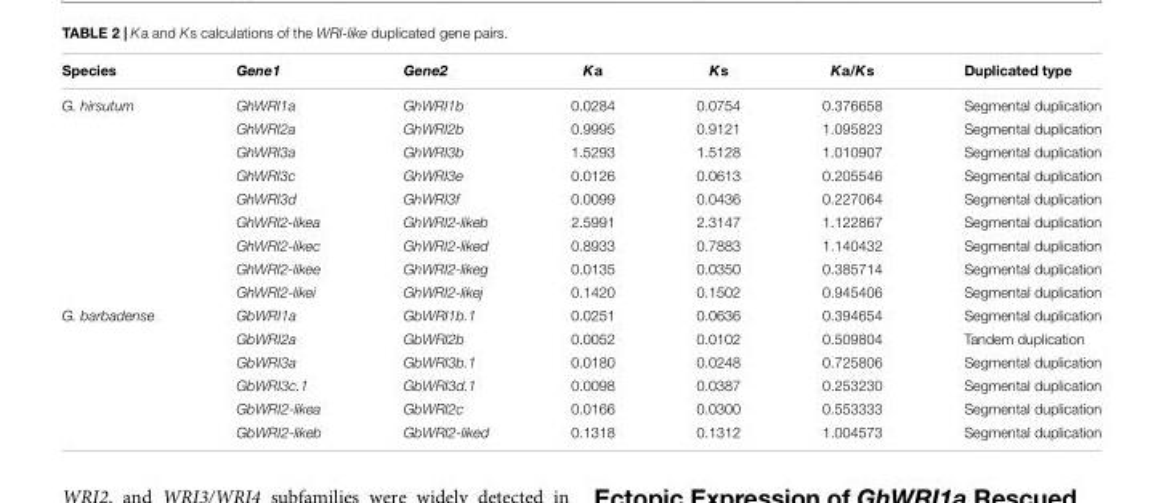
<table><thead><tr><td>Species</td><td>Gene1</td><td>Gene2</td><td>Ka</td><td>Ks</td><td>Ka/Ks</td><td>Duplicated type</td></tr></thead><tbody><tr><td rowspan="9">G. hirsutum</td><td>GhWRI1a</td><td>GhWRI1b</td><td>0.0284</td><td>0.0754</td><td>0.376658</td><td>Segmental duplication</td></tr><tr><td>GhWRI2a</td><td>GhWRI2b</td><td>0.9995</td><td>0.9121</td><td>1.095823</td><td>Segmental duplication</td></tr><tr><td>GhWRI3a</td><td>GhWRI3b</td><td>1.5293</td><td>1.5128</td><td>1.010907</td><td>Segmental duplication</td></tr><tr><td>GhWRI3c</td><td>GhWRI3e</td><td>0.0126</td><td>0.0613</td><td>0.205546</td><td>Segmental duplication</td></tr><tr><td>GhWRI3d</td><td>GhWRI3f</td><td>0.0099</td><td>0.0436</td><td>0.227064</td><td>Segmental duplication</td></tr><tr><td>GhWRI2-likea</td><td>GhWRI2-likeb</td><td>2.5991</td><td>2.3147</td><td>1.122867</td><td>Segmental duplication</td></tr><tr><td>GhWRI2-likec</td><td>GhWRI2-liked</td><td>0.8933</td><td>0.7883</td><td>1.140432</td><td>Segmental duplication</td></tr><tr><td>GhWRI2-likee</td><td>GhWRI2-likeg</td><td>0.0135</td><td>0.0350</td><td>0.385714</td><td>Segmental duplication</td></tr><tr><td>GhWRI2-likei</td><td>GhWRI2-likej</td><td>0.1420</td><td>0.1502</td><td>0.945406</td><td>Segmental duplication</td></tr><tr><td rowspan="6">G. barbadense</td><td>GbWRI1a</td><td>GbWRI1b.1</td><td>0.0251</td><td>0.0636</td><td>0.394654</td><td>Segmental duplication</td></tr><tr><td>GbWRI2a</td><td>GbWRI2b</td><td>0.0052</td><td>0.0102</td><td>0.509804</td><td>Tandem duplication</td></tr><tr><td>GbWRI3a</td><td>GbWRI3b.1</td><td>0.0180</td><td>0.0248</td><td>0.725806</td><td>Segmental duplication</td></tr><tr><td>GbWRI3c.1</td><td>GbWRI3d.1</td><td>0.0098</td><td>0.0387</td><td>0.253230</td><td>Segmental duplication</td></tr><tr><td>GbWRI2-likea</td><td>GbWRI2c</td><td>0.0166</td><td>0.0300</td><td>0.553333</td><td>Segmental duplication</td></tr><tr><td>GbWRI2-likeb</td><td>GbWRI2-liked</td><td>0.1318</td><td>0.1312</td><td>1.004573</td><td>Segmental duplication</td></tr></tbody></table>